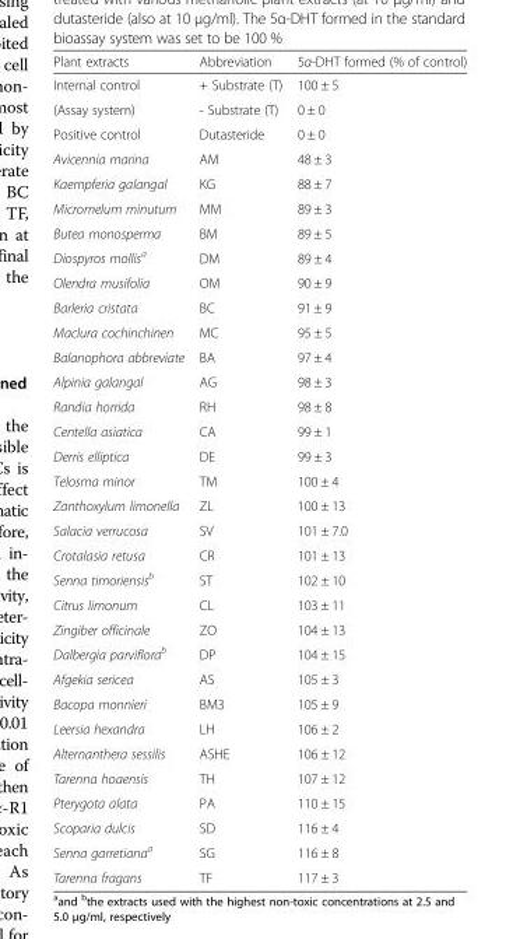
<table><thead><tr><td>Plant extracts</td><td>Abbreviation</td><td>5α-DHT formed (% of control)</td></tr></thead><tbody><tr><td>Internal control</td><td>+ Substrate (T)</td><td>100 ± 5</td></tr><tr><td>(Assay system)</td><td>- Substrate (T)</td><td>0 ± 0</td></tr><tr><td>Positive control</td><td>Dutasteride</td><td>0 ± 0</td></tr><tr><td>Avicennia marina</td><td>AM</td><td>48 ± 3</td></tr><tr><td>Kaempferia galangal</td><td>KG</td><td>88 ± 7</td></tr><tr><td>Micromelum minutum</td><td>MM</td><td>89 ± 3</td></tr><tr><td>Butea monosperma</td><td>BM</td><td>89 ± 5</td></tr><tr><td>Diospyros mollis<sup>a</sup></td><td>DM</td><td>89 ± 4</td></tr><tr><td>Olendra musifolia</td><td>OM</td><td>90 ± 9</td></tr><tr><td>Barleria cristata</td><td>BC</td><td>91 ± 9</td></tr><tr><td>Maclura cochinchinen</td><td>MC</td><td>95 ± 5</td></tr><tr><td>Balanophora abbreviate</td><td>BA</td><td>97 ± 4</td></tr><tr><td>Alpinia galangal</td><td>AG</td><td>98 ± 3</td></tr><tr><td>Randia horrida</td><td>RH</td><td>98 ± 8</td></tr><tr><td>Centella asiatica</td><td>CA</td><td>99 ± 1</td></tr><tr><td>Derris elliptica</td><td>DE</td><td>99 ± 3</td></tr><tr><td>Telosma minor</td><td>TM</td><td>100 ± 4</td></tr><tr><td>Zanthoxylum limonella</td><td>ZL</td><td>100 ± 13</td></tr><tr><td>Salacia verrucosa</td><td>SV</td><td>101 ± 7.0</td></tr><tr><td>Crotalasia retusa</td><td>CR</td><td>101 ± 13</td></tr><tr><td>Senna timoriensis<sup>b</sup></td><td>ST</td><td>102 ± 10</td></tr><tr><td>Citrus limonum</td><td>CL</td><td>103 ± 11</td></tr><tr><td>Zingiber officinale</td><td>ZO</td><td>104 ± 13</td></tr><tr><td>Dalbergia parviflora<sup>b</sup></td><td>DP</td><td>104 ± 15</td></tr><tr><td>Afgekia sericea</td><td>AS</td><td>105 ± 3</td></tr><tr><td>Bacopa monnieri</td><td>BM3</td><td>105 ± 9</td></tr><tr><td>Leersia hexandra</td><td>LH</td><td>106 ± 2</td></tr><tr><td>Alternanthera sessilis</td><td>ASHE</td><td>106 ± 12</td></tr><tr><td>Tarenna hoaensis</td><td>TH</td><td>107 ± 12</td></tr><tr><td>Pterygota alata</td><td>PA</td><td>110 ± 15</td></tr><tr><td>Scoparia dulcis</td><td>SD</td><td>116 ± 4</td></tr><tr><td>Senna garretiana<sup>a</sup></td><td>SG</td><td>116 ± 8</td></tr><tr><td>Tarenna fragans</td><td>TF</td><td>117 ± 3</td></tr></tbody></table>